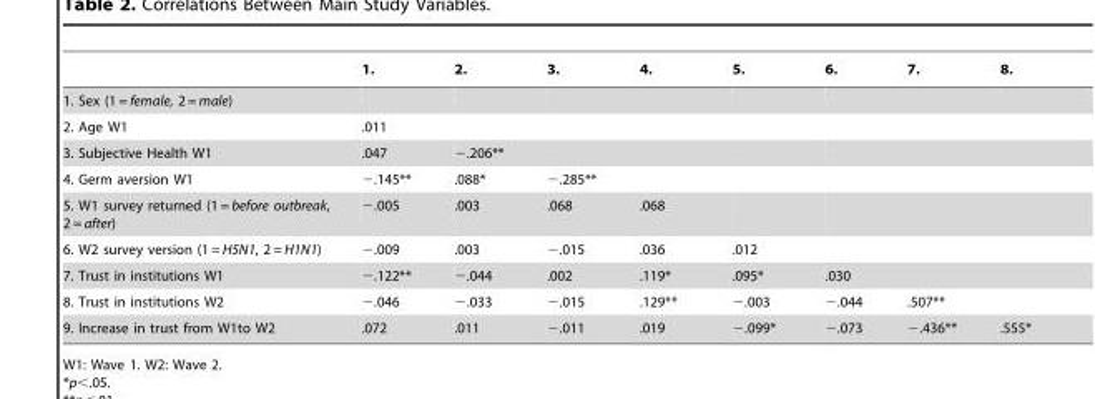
<table><thead><tr><td></td><td>1.</td><td>2.</td><td>3.</td><td>4.</td><td>5.</td><td>6.</td><td>7.</td><td>8.</td></tr></thead><tbody><tr><td colspan="9">1. Sex (1 = female, 2 = male)</td></tr><tr><td>2. Age W1</td><td>.011</td><td></td><td></td><td></td><td></td><td></td><td></td><td></td></tr><tr><td>3. Subjective Health W1</td><td>.047</td><td>−.206**</td><td></td><td></td><td></td><td></td><td></td><td></td></tr><tr><td>4. Germ aversion W1</td><td>−.145**</td><td>.088*</td><td>−.285**</td><td></td><td></td><td></td><td></td><td></td></tr><tr><td>5. W1 survey returned (1 = before outbreak, 2 = after)</td><td>−.005</td><td>.003</td><td>.068</td><td>.068</td><td></td><td></td><td></td><td></td></tr><tr><td>6. W2 survey version (1 = H5N1, 2 = H1N1)</td><td>−.009</td><td>.003</td><td>−.015</td><td>.036</td><td>.012</td><td></td><td></td><td></td></tr><tr><td>7. Trust in institutions W1</td><td>−.122**</td><td>−.044</td><td>.002</td><td>.119*</td><td>.095*</td><td>.030</td><td></td><td></td></tr><tr><td>8. Trust in institutions W2</td><td>−.046</td><td>−.033</td><td>−.015</td><td>.129**</td><td>−.003</td><td>−.044</td><td>.507**</td><td></td></tr><tr><td>9. Increase in trust from W1to W2</td><td>.072</td><td>.011</td><td>−.011</td><td>.019</td><td>−.099*</td><td>−.073</td><td>−.436**</td><td>.555*</td></tr></tbody></table>